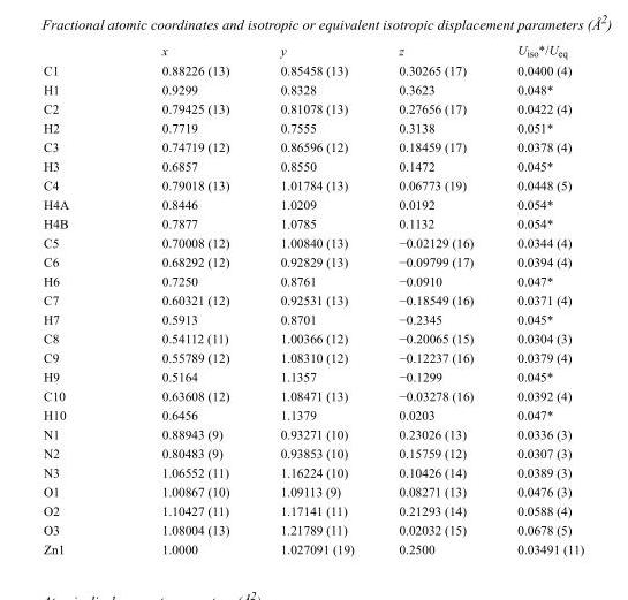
<table><thead><tr><td></td><td>x</td><td>y</td><td>z</td><td>U<sub>iso</sub>*/U<sub>eq</sub></td></tr></thead><tbody><tr><td>C1</td><td>0.88226 (13)</td><td>0.85458 (13)</td><td>0.30265 (17)</td><td>0.0400 (4)</td></tr><tr><td>H1</td><td>0.9299</td><td>0.8328</td><td>0.3623</td><td>0.048*</td></tr><tr><td>C2</td><td>0.79425 (13)</td><td>0.81078 (13)</td><td>0.27656 (17)</td><td>0.0422 (4)</td></tr><tr><td>H2</td><td>0.7719</td><td>0.7555</td><td>0.3138</td><td>0.051*</td></tr><tr><td>C3</td><td>0.74719 (12)</td><td>0.86596 (12)</td><td>0.18459 (17)</td><td>0.0378 (4)</td></tr><tr><td>H3</td><td>0.6857</td><td>0.8550</td><td>0.1472</td><td>0.045*</td></tr><tr><td>C4</td><td>0.79018 (13)</td><td>1.01784 (13)</td><td>0.06773 (19)</td><td>0.0448 (5)</td></tr><tr><td>H4A</td><td>0.8446</td><td>1.0209</td><td>0.0192</td><td>0.054*</td></tr><tr><td>H4B</td><td>0.7877</td><td>1.0785</td><td>0.1132</td><td>0.054*</td></tr><tr><td>C5</td><td>0.70008 (12)</td><td>1.00840 (13)</td><td>−0.02129 (16)</td><td>0.0344 (4)</td></tr><tr><td>C6</td><td>0.68292 (12)</td><td>0.92829 (13)</td><td>−0.09799 (17)</td><td>0.0394 (4)</td></tr><tr><td>H6</td><td>0.7250</td><td>0.8761</td><td>−0.0910</td><td>0.047*</td></tr><tr><td>C7</td><td>0.60321 (12)</td><td>0.92531 (13)</td><td>−0.18549 (16)</td><td>0.0371 (4)</td></tr><tr><td>H7</td><td>0.5913</td><td>0.8701</td><td>−0.2345</td><td>0.045*</td></tr><tr><td>C8</td><td>0.54112 (11)</td><td>1.00366 (12)</td><td>−0.20065 (15)</td><td>0.0304 (3)</td></tr><tr><td>C9</td><td>0.55789 (12)</td><td>1.08310 (12)</td><td>−0.12237 (16)</td><td>0.0379 (4)</td></tr><tr><td>H9</td><td>0.5164</td><td>1.1357</td><td>−0.1299</td><td>0.045*</td></tr><tr><td>C10</td><td>0.63608 (12)</td><td>1.08471 (13)</td><td>−0.03278 (16)</td><td>0.0392 (4)</td></tr><tr><td>H10</td><td>0.6456</td><td>1.1379</td><td>0.0203</td><td>0.047*</td></tr><tr><td>N1</td><td>0.88943 (9)</td><td>0.93271 (10)</td><td>0.23026 (13)</td><td>0.0336 (3)</td></tr><tr><td>N2</td><td>0.80483 (9)</td><td>0.93853 (10)</td><td>0.15759 (12)</td><td>0.0307 (3)</td></tr><tr><td>N3</td><td>1.06552 (11)</td><td>1.16224 (10)</td><td>0.10426 (14)</td><td>0.0389 (3)</td></tr><tr><td>O1</td><td>1.00867 (10)</td><td>1.09113 (9)</td><td>0.08271 (13)</td><td>0.0476 (3)</td></tr><tr><td>O2</td><td>1.10427 (11)</td><td>1.17141 (11)</td><td>0.21293 (14)</td><td>0.0588 (4)</td></tr><tr><td>O3</td><td>1.08004 (13)</td><td>1.21789 (11)</td><td>0.02032 (15)</td><td>0.0678 (5)</td></tr><tr><td>Zn1</td><td>1.0000</td><td>1.027091 (19)</td><td>0.2500</td><td>0.03491 (11)</td></tr></tbody></table>